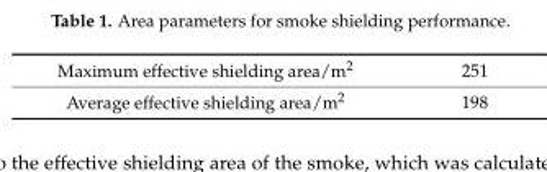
<table><tbody><tr><td>Maximum effective shielding area/m<sup>2</sup></td><td>251</td></tr><tr><td>Average effective shielding area/m<sup>2</sup></td><td>198</td></tr></tbody></table>